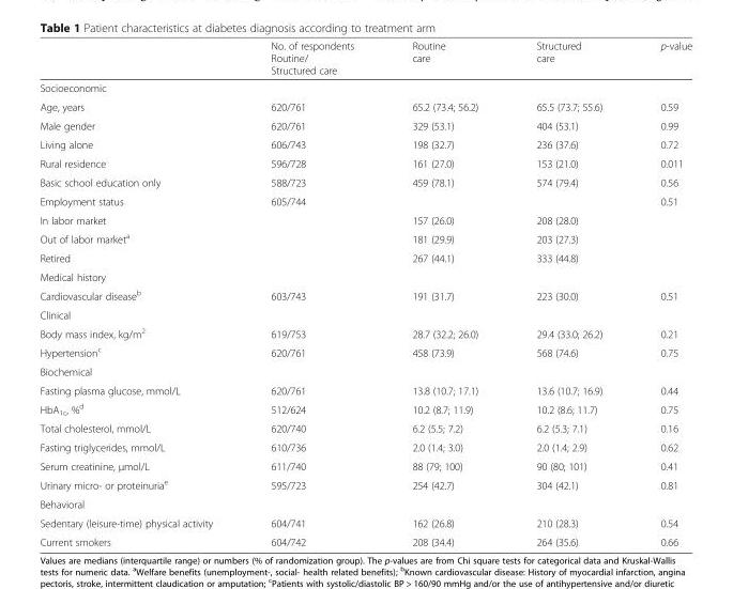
<table><thead><tr><td></td><td>No. of respondents Routine/ Structured care</td><td>Routine care</td><td>Structured care</td><td>p-value</td></tr></thead><tbody><tr><td colspan="5">Socioeconomic</td></tr><tr><td>Age, years</td><td>620/761</td><td>65.2 (73.4; 56.2)</td><td>65.5 (73.7; 55.6)</td><td>0.59</td></tr><tr><td>Male gender</td><td>620/761</td><td>329 (53.1)</td><td>404 (53.1)</td><td>0.99</td></tr><tr><td>Living alone</td><td>606/743</td><td>198 (32.7)</td><td>236 (37.6)</td><td>0.72</td></tr><tr><td>Rural residence</td><td>596/728</td><td>161 (27.0)</td><td>153 (21.0)</td><td>0.011</td></tr><tr><td>Basic school education only</td><td>588/723</td><td>459 (78.1)</td><td>574 (79.4)</td><td>0.56</td></tr><tr><td>Employment status</td><td>605/744</td><td></td><td></td><td>0.51</td></tr><tr><td>In labor market</td><td></td><td>157 (26.0)</td><td>208 (28.0)</td><td></td></tr><tr><td>Out of labor market<sup>a</sup></td><td></td><td>181 (29.9)</td><td>203 (27.3)</td><td></td></tr><tr><td>Retired</td><td></td><td>267 (44.1)</td><td>333 (44.8)</td><td></td></tr><tr><td colspan="5">Medical history</td></tr><tr><td>Cardiovascular disease<sup>b</sup></td><td>603/743</td><td>191 (31.7)</td><td>223 (30.0)</td><td>0.51</td></tr><tr><td colspan="5">Clinical</td></tr><tr><td>Body mass index, kg/m<sup>2</sup></td><td>619/753</td><td>28.7 (32.2; 26.0)</td><td>29.4 (33.0; 26.2)</td><td>0.21</td></tr><tr><td>Hypertension<sup>c</sup></td><td>620/761</td><td>458 (73.9)</td><td>568 (74.6)</td><td>0.75</td></tr><tr><td colspan="5">Biochemical</td></tr><tr><td>Fasting plasma glucose, mmol/L</td><td>620/761</td><td>13.8 (10.7; 17.1)</td><td>13.6 (10.7; 16.9)</td><td>0.44</td></tr><tr><td>HbA<sub>1c</sub>, %<sup>d</sup></td><td>512/624</td><td>10.2 (8.7; 11.9)</td><td>10.2 (8.6; 11.7)</td><td>0.75</td></tr><tr><td>Total cholesterol, mmol/L</td><td>620/740</td><td>6.2 (5.5; 7.2)</td><td>6.2 (5.3; 7.1)</td><td>0.16</td></tr><tr><td>Fasting triglycerides, mmol/L</td><td>610/736</td><td>2.0 (1.4; 3.0)</td><td>2.0 (1.4; 2.9)</td><td>0.62</td></tr><tr><td>Serum creatinine, μmol/L</td><td>611/740</td><td>88 (79; 100)</td><td>90 (80; 101)</td><td>0.41</td></tr><tr><td>Urinary micro- or proteinuria<sup>e</sup></td><td>595/723</td><td>254 (42.7)</td><td>304 (42.1)</td><td>0.81</td></tr><tr><td colspan="5">Behavioral</td></tr><tr><td>Sedentary (leisure-time) physical activity</td><td>604/741</td><td>162 (26.8)</td><td>210 (28.3)</td><td>0.54</td></tr><tr><td>Current smokers</td><td>604/742</td><td>208 (34.4)</td><td>264 (35.6)</td><td>0.66</td></tr></tbody></table>